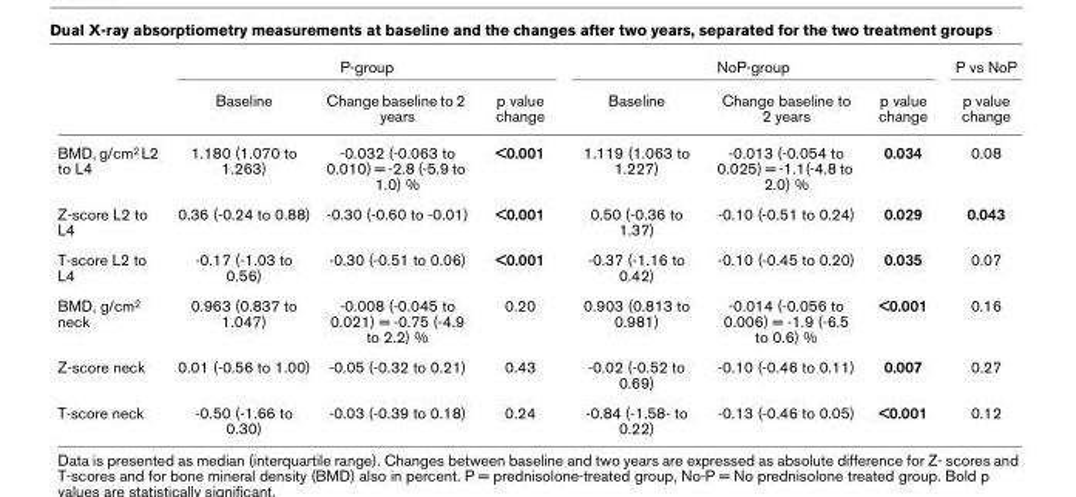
<table><thead><tr><td rowspan="2"></td><td colspan="3">P-group</td><td colspan="3">NoP-group</td><td rowspan="2">P vs NoP p value change</td></tr><tr><td>Baseline</td><td>Change baseline to 2 years</td><td>p value change</td><td>Baseline</td><td>Change baseline to 2 years</td><td>p value change</td></tr></thead><tbody><tr><td>BMD, g/cm<sup>2</sup> L2 to L4</td><td>1.180 (1.070 to 1.263)</td><td>-0.032 (-0.063 to 0.010) = -2.8 (-5.9 to 1.0) %</td><td>&lt;0.001</td><td>1.119 (1.063 to 1.227)</td><td>-0.013 (-0.054 to 0.025) = -1.1(-4.8 to 2.0) %</td><td>0.034</td><td>0.08</td></tr><tr><td>Z-score L2 to L4</td><td>0.36 (-0.24 to 0.88)</td><td>-0.30 (-0.60 to -0.01)</td><td>&lt;0.001</td><td>0.50 (-0.36 to 1.37)</td><td>-0.10 (-0.51 to 0.24)</td><td>0.029</td><td>0.043</td></tr><tr><td>T-score L2 to L4</td><td>-0.17 (-1.03 to 0.56)</td><td>-0.30 (-0.51 to 0.06)</td><td>&lt;0.001</td><td>-0.37 (-1.16 to 0.42)</td><td>-0.10 (-0.45 to 0.20)</td><td>0.035</td><td>0.07</td></tr><tr><td>BMD, g/cm<sup>2</sup> neck</td><td>0.963 (0.837 to 1.047)</td><td>-0.008 (-0.045 to 0.021) = -0.75 (-4.9 to 2.2) %</td><td>0.20</td><td>0.903 (0.813 to 0.981)</td><td>-0.014 (-0.056 to 0.006) = -1.9 (-6.5 to 0.6) %</td><td>&lt;0.001</td><td>0.16</td></tr><tr><td>Z-score neck</td><td>0.01 (-0.56 to 1.00)</td><td>-0.05 (-0.32 to 0.21)</td><td>0.43</td><td>-0.02 (-0.52 to 0.69)</td><td>-0.10 (-0.46 to 0.11)</td><td>0.007</td><td>0.27</td></tr><tr><td>T-score neck</td><td>-0.50 (-1.66 to 0.30)</td><td>-0.03 (-0.39 to 0.18)</td><td>0.24</td><td>-0.84 (-1.58- to 0.22)</td><td>-0.13 (-0.46 to 0.05)</td><td>&lt;0.001</td><td>0.12</td></tr></tbody></table>